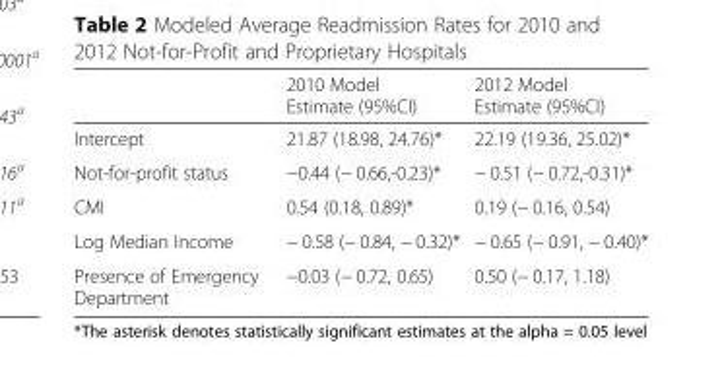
<table><thead><tr><td></td><td>2010 Model Estimate (95%CI)</td><td>2012 Model Estimate (95%CI)</td></tr></thead><tbody><tr><td>Intercept</td><td>21.87 (18.98, 24.76)*</td><td>22.19 (19.36, 25.02)*</td></tr><tr><td>Not-for-profit status</td><td>−0.44 (− 0.66,-0.23)*</td><td>− 0.51 (− 0.72,-0.31)*</td></tr><tr><td>CMI</td><td>0.54 (0.18, 0.89)*</td><td>0.19 (− 0.16, 0.54)</td></tr><tr><td>Log Median Income</td><td>− 0.58 (− 0.84, − 0.32)*</td><td>− 0.65 (− 0.91, − 0.40)*</td></tr><tr><td>Presence of Emergency Department</td><td>−0.03 (− 0.72, 0.65)</td><td>0.50 (− 0.17, 1.18)</td></tr></tbody></table>